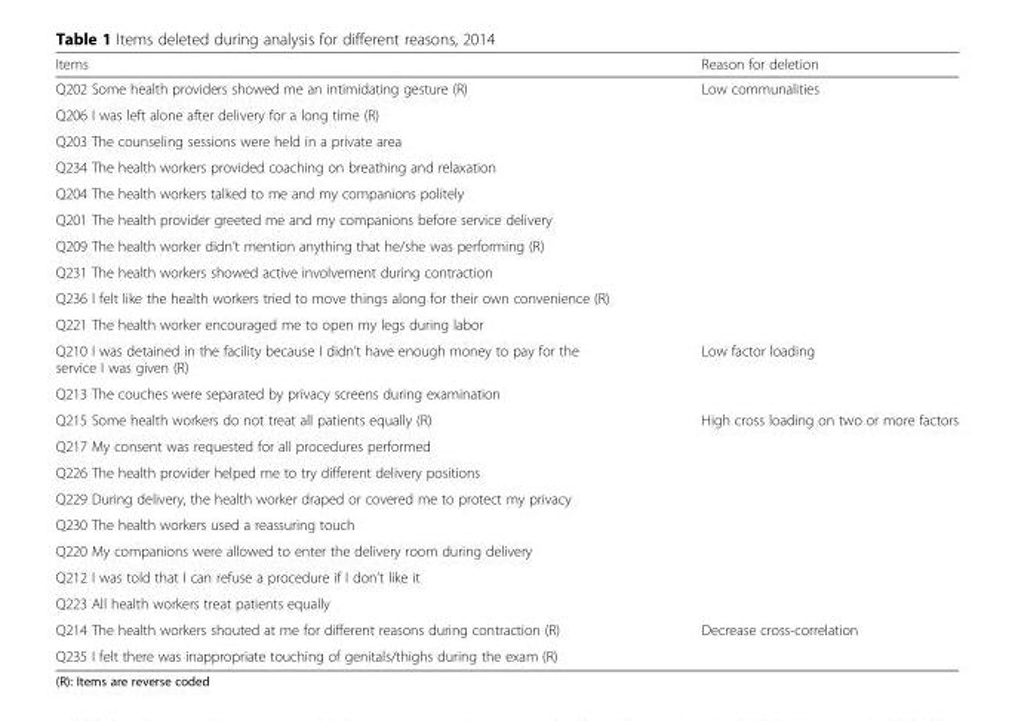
<table><thead><tr><td>Items</td><td>Reason for deletion</td></tr></thead><tbody><tr><td>Q202 Some health providers showed me an intimidating gesture (R)</td><td rowspan="10">Low communalities</td></tr><tr><td>Q206 I was left alone after delivery for a long time (R)</td></tr><tr><td>Q203 The counseling sessions were held in a private area</td></tr><tr><td>Q234 The health workers provided coaching on breathing and relaxation</td></tr><tr><td>Q204 The health workers talked to me and my companions politely</td></tr><tr><td>Q201 The health provider greeted me and my companions before service delivery</td></tr><tr><td>Q209 The health worker didn’t mention anything that he/she was performing (R)</td></tr><tr><td>Q231 The health workers showed active involvement during contraction</td></tr><tr><td>Q236 I felt like the health workers tried to move things along for their own convenience (R)</td></tr><tr><td>Q221 The health worker encouraged me to open my legs during labor</td></tr><tr><td>Q210 I was detained in the facility because I didn’t have enough money to pay for the service I was given (R)</td><td rowspan="2">Low factor loading</td></tr><tr><td>Q213 The couches were separated by privacy screens during examination</td></tr><tr><td>Q215 Some health workers do not treat all patients equally (R)</td><td rowspan="8">High cross loading on two or more factors</td></tr><tr><td>Q217 My consent was requested for all procedures performed</td></tr><tr><td>Q226 The health provider helped me to try different delivery positions</td></tr><tr><td>Q229 During delivery, the health worker draped or covered me to protect my privacy</td></tr><tr><td>Q230 The health workers used a reassuring touch</td></tr><tr><td>Q220 My companions were allowed to enter the delivery room during delivery</td></tr><tr><td>Q212 I was told that I can refuse a procedure if I don’t like it</td></tr><tr><td>Q223 All health workers treat patients equally</td></tr><tr><td>Q214 The health workers shouted at me for different reasons during contraction (R)</td><td rowspan="2">Decrease cross-correlation</td></tr><tr><td>Q235 I felt there was inappropriate touching of genitals/thighs during the exam (R)</td></tr></tbody></table>